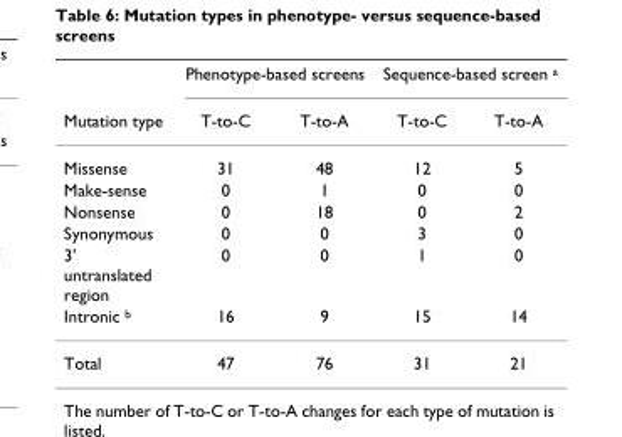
<table><thead><tr><td rowspan="2">Mutation type</td><td colspan="2">Phenotype-based screens</td><td colspan="2">Sequence-based screen <sup>a</sup></td></tr><tr><td>T-to-C</td><td>T-to-A</td><td>T-to-C</td><td>T-to-A</td></tr></thead><tbody><tr><td>Missense</td><td>31</td><td>48</td><td>12</td><td>5</td></tr><tr><td>Make-sense</td><td>0</td><td>1</td><td>0</td><td>0</td></tr><tr><td>Nonsense</td><td>0</td><td>18</td><td>0</td><td>2</td></tr><tr><td>Synonymous</td><td>0</td><td>0</td><td>3</td><td>0</td></tr><tr><td>3&#x27; untranslated region</td><td>0</td><td>0</td><td>1</td><td>0</td></tr><tr><td>Intronic <sup>b</sup></td><td>16</td><td>9</td><td>15</td><td>14</td></tr><tr><td>Total</td><td>47</td><td>76</td><td>31</td><td>21</td></tr></tbody></table>